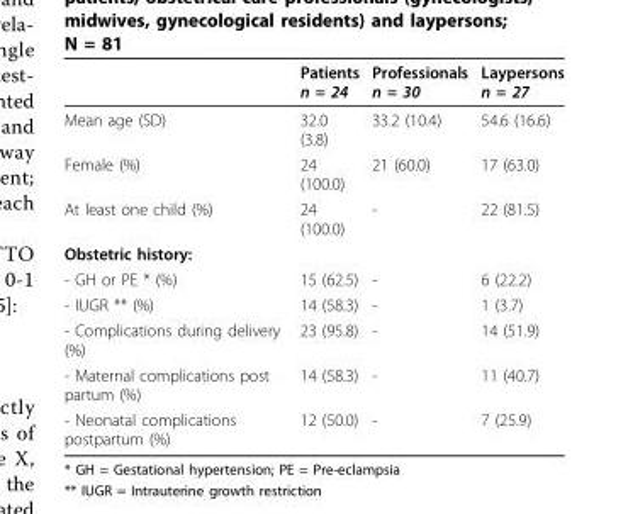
<table><thead><tr><td></td><td>Patients n = 24</td><td>Professionals n = 30</td><td>Laypersons n = 27</td></tr></thead><tbody><tr><td>Mean age (SD)</td><td>32.0 (3.8)</td><td>33.2 (10.4)</td><td>54.6 (16.6)</td></tr><tr><td>Female (%)</td><td>24 (100.0)</td><td>21 (60.0)</td><td>17 (63.0)</td></tr><tr><td>At least one child (%)</td><td>24 (100.0)</td><td>-</td><td>22 (81.5)</td></tr><tr><td colspan="4">Obstetric history:</td></tr><tr><td>- GH or PE * (%)</td><td>15 (62.5)</td><td>-</td><td>6 (22.2)</td></tr><tr><td>- IUGR ** (%)</td><td>14 (58.3)</td><td>-</td><td>1 (3.7)</td></tr><tr><td>- Complications during delivery (%)</td><td>23 (95.8)</td><td>-</td><td>14 (51.9)</td></tr><tr><td>- Maternal complications post partum (%)</td><td>14 (58.3)</td><td>-</td><td>11 (40.7)</td></tr><tr><td>- Neonatal complications postpartum (%)</td><td>12 (50.0)</td><td>-</td><td>7 (25.9)</td></tr></tbody></table>